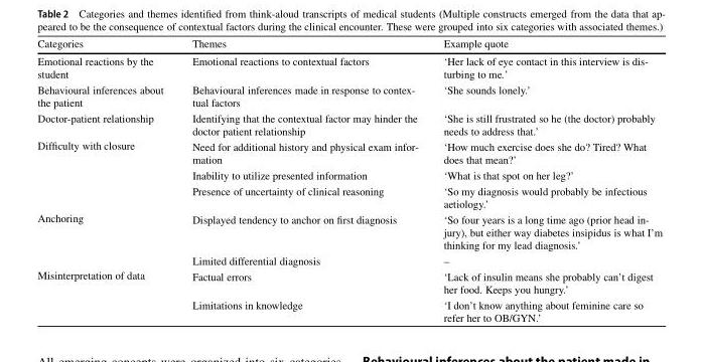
<table><thead><tr><td>Categories</td><td>Themes</td><td>Example quote</td></tr></thead><tbody><tr><td>Emotional reactions by the student</td><td>Emotional reactions to contextual factors</td><td>‘Her lack of eye contact in this interview is dis- turbing to me.’</td></tr><tr><td>Behavioural inferences about the patient</td><td>Behavioural inferences made in response to contex- tual factors</td><td>‘She sounds lonely.’</td></tr><tr><td>Doctor-patient relationship</td><td>Identifying that the contextual factor may hinder the doctor patient relationship</td><td>‘She is still frustrated so he (the doctor) probably needs to address that.’</td></tr><tr><td rowspan="3">Difficulty with closure</td><td>Need for additional history and physical exam infor- mation</td><td>‘How much exercise does she do? Tired? What does that mean?’</td></tr><tr><td>Inability to utilize presented information</td><td>‘What is that spot on her leg?’</td></tr><tr><td>Presence of uncertainty of clinical reasoning</td><td>‘So my diagnosis would probably be infectious aetiology.’</td></tr><tr><td rowspan="2">Anchoring</td><td>Displayed tendency to anchor on first diagnosis</td><td>‘So four years is a long time ago (prior head in- jury), but either way diabetes insipidus is what I’m thinking for my lead diagnosis.’</td></tr><tr><td>Limited differential diagnosis</td><td>–</td></tr><tr><td rowspan="2">Misinterpretation of data</td><td>Factual errors</td><td>‘Lack of insulin means she probably can’t digest her food. Keeps you hungry.’</td></tr><tr><td>Limitations in knowledge</td><td>‘I don’t know anything about feminine care so refer her to OB/GYN.’</td></tr></tbody></table>